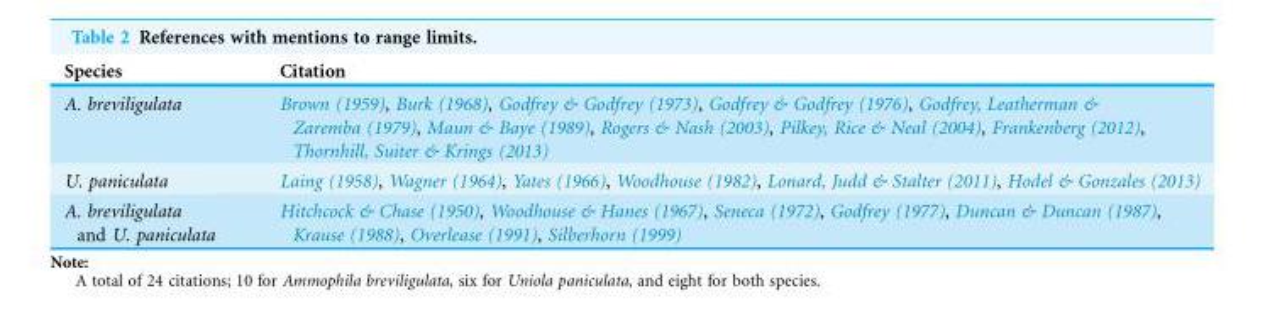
<table><thead><tr><td>Species</td><td>Citation</td></tr></thead><tbody><tr><td>A. breviligulata</td><td>Brown (1959), Burk (1968), Godfrey &amp; Godfrey (1973), Godfrey &amp; Godfrey (1976), Godfrey, Leatherman &amp; Zaremba (1979), Maun &amp; Baye (1989), Rogers &amp; Nash (2003), Pilkey, Rice &amp; Neal (2004), Frankenberg (2012), Thornhill, Suiter &amp; Krings (2013)</td></tr><tr><td>U. paniculata</td><td>Laing (1958), Wagner (1964), Yates (1966), Woodhouse (1982), Lonard, Judd &amp; Stalter (2011), Hodel &amp; Gonzales (2013)</td></tr><tr><td>A. breviligulata and U. paniculata</td><td>Hitchcock &amp; Chase (1950), Woodhouse &amp; Hanes (1967), Seneca (1972), Godfrey (1977), Duncan &amp; Duncan (1987), Krause (1988), Overlease (1991), Silberhorn (1999)</td></tr></tbody></table>